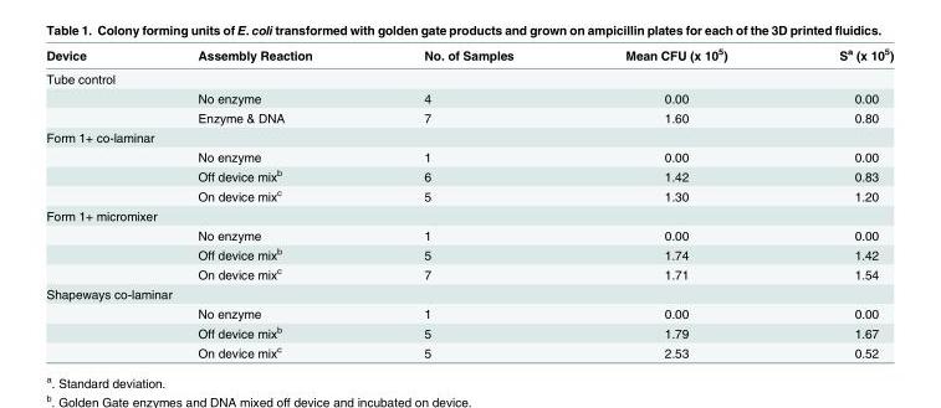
<table><thead><tr><td>Device</td><td>Assembly Reaction</td><td>No. of Samples</td><td>Mean CFU (x 10<sup>5</sup>)</td><td>S<sup>a</sup> (x 10<sup>5</sup>)</td></tr></thead><tbody><tr><td colspan="5">Tube control</td></tr><tr><td></td><td>No enzyme</td><td>4</td><td>0.00</td><td>0.00</td></tr><tr><td></td><td>Enzyme &amp; DNA</td><td>7</td><td>1.60</td><td>0.80</td></tr><tr><td colspan="5">Form 1+ co-laminar</td></tr><tr><td></td><td>No enzyme</td><td>1</td><td>0.00</td><td>0.00</td></tr><tr><td></td><td>Off device mix<sup>b</sup></td><td>6</td><td>1.42</td><td>0.83</td></tr><tr><td></td><td>On device mix<sup>c</sup></td><td>5</td><td>1.30</td><td>1.20</td></tr><tr><td colspan="5">Form 1+ micromixer</td></tr><tr><td></td><td>No enzyme</td><td>1</td><td>0.00</td><td>0.00</td></tr><tr><td></td><td>Off device mix<sup>b</sup></td><td>5</td><td>1.74</td><td>1.42</td></tr><tr><td></td><td>On device mix<sup>c</sup></td><td>7</td><td>1.71</td><td>1.54</td></tr><tr><td colspan="5">Shapeways co-laminar</td></tr><tr><td></td><td>No enzyme</td><td>1</td><td>0.00</td><td>0.00</td></tr><tr><td></td><td>Off device mix<sup>b</sup></td><td>5</td><td>1.79</td><td>1.67</td></tr><tr><td></td><td>On device mix<sup>c</sup></td><td>5</td><td>2.53</td><td>0.52</td></tr></tbody></table>